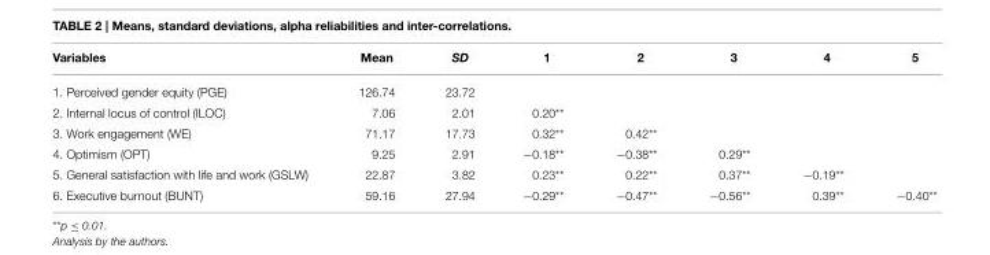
<table><thead><tr><td>Variables</td><td>Mean</td><td>SD</td><td>1</td><td>2</td><td>3</td><td>4</td><td>5</td></tr></thead><tbody><tr><td>1. Perceived gender equity (PGE)</td><td>126.74</td><td>23.72</td><td></td><td></td><td></td><td></td><td></td></tr><tr><td>2. Internal locus of control (ILOC)</td><td>7.06</td><td>2.01</td><td>0.20**</td><td></td><td></td><td></td><td></td></tr><tr><td>3. Work engagement (WE)</td><td>71.17</td><td>17.73</td><td>0.32**</td><td>0.42**</td><td></td><td></td><td></td></tr><tr><td>4. Optimism (OPT)</td><td>9.25</td><td>2.91</td><td>−0.18**</td><td>−0.38**</td><td>0.29**</td><td></td><td></td></tr><tr><td>5. General satisfaction with life and work (GSLW)</td><td>22.87</td><td>3.82</td><td>0.23**</td><td>0.22**</td><td>0.37**</td><td>−0.19**</td><td></td></tr><tr><td>6. Executive burnout (BUNT)</td><td>59.16</td><td>27.94</td><td>−0.29**</td><td>−0.47**</td><td>−0.56**</td><td>0.39**</td><td>−0.40**</td></tr></tbody></table>